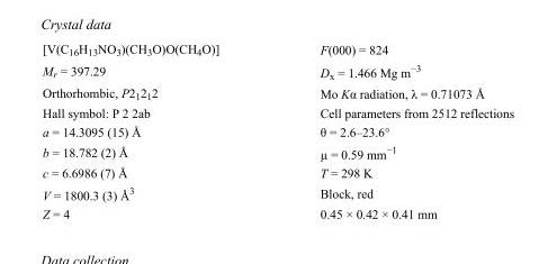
<table><tbody><tr><td>[V(C<sub>16</sub>H<sub>13</sub>NO<sub>3</sub>)(CH<sub>3</sub>O)O(CH<sub>4</sub>O)]</td><td>F(000) = 824</td></tr><tr><td>M<sub>r</sub> = 397.29</td><td>D<sub>x</sub> = 1.466 Mg m<sup>−3</sup></td></tr><tr><td>Orthorhombic, P2<sub>1</sub>2<sub>1</sub>2</td><td>Mo Kα radiation, λ = 0.71073 Å</td></tr><tr><td>Hall symbol: P 2 2ab</td><td>Cell parameters from 2512 reflections</td></tr><tr><td>a = 14.3095 (15) Å</td><td>θ = 2.6–23.6°</td></tr><tr><td>b = 18.782 (2) Å</td><td>µ = 0.59 mm<sup>−1</sup></td></tr><tr><td>c = 6.6986 (7) Å</td><td>T = 298 K</td></tr><tr><td>V = 1800.3 (3) Å<sup>3</sup></td><td>Block, red</td></tr><tr><td>Z = 4</td><td>0.45 × 0.42 × 0.41 mm</td></tr></tbody></table>